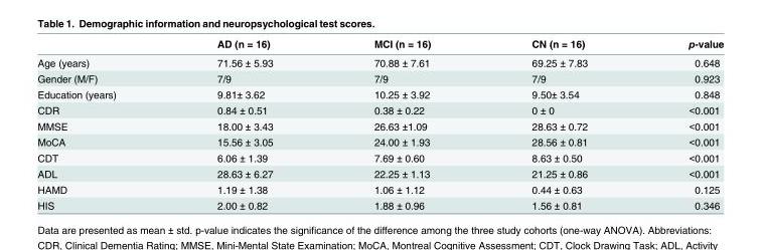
<table><thead><tr><td></td><td>AD (n = 16)</td><td>MCI (n = 16)</td><td>CN (n = 16)</td><td>p-value</td></tr></thead><tbody><tr><td>Age (years)</td><td>71.56 ± 5.93</td><td>70.88 ± 7.61</td><td>69.25 ± 7.83</td><td>0.648</td></tr><tr><td>Gender (M/F)</td><td>7/9</td><td>7/9</td><td>7/9</td><td>0.923</td></tr><tr><td>Education (years)</td><td>9.81± 3.62</td><td>10.25 ± 3.92</td><td>9.50± 3.54</td><td>0.848</td></tr><tr><td>CDR</td><td>0.84 ± 0.51</td><td>0.38 ± 0.22</td><td>0 ± 0</td><td>&lt;0.001</td></tr><tr><td>MMSE</td><td>18.00 ± 3.43</td><td>26.63 ±1.09</td><td>28.63 ± 0.72</td><td>&lt;0.001</td></tr><tr><td>MoCA</td><td>15.56 ± 3.05</td><td>24.00 ± 1.93</td><td>28.56 ± 0.81</td><td>&lt;0.001</td></tr><tr><td>CDT</td><td>6.06 ± 1.39</td><td>7.69 ± 0.60</td><td>8.63 ± 0.50</td><td>&lt;0.001</td></tr><tr><td>ADL</td><td>28.63 ± 6.27</td><td>22.25 ± 1.13</td><td>21.25 ± 0.86</td><td>&lt;0.001</td></tr><tr><td>HAMD</td><td>1.19 ± 1.38</td><td>1.06 ± 1.12</td><td>0.44 ± 0.63</td><td>0.125</td></tr><tr><td>HIS</td><td>2.00 ± 0.82</td><td>1.88 ± 0.96</td><td>1.56 ± 0.81</td><td>0.346</td></tr></tbody></table>